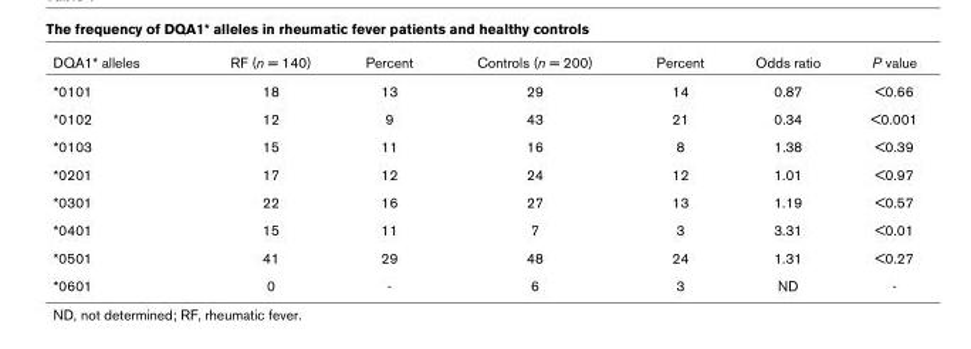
<table><thead><tr><td>DQA1* alleles</td><td>RF (n = 140)</td><td>Percent</td><td>Controls (n = 200)</td><td>Percent</td><td>Odds ratio</td><td>P value</td></tr></thead><tbody><tr><td>*0101</td><td>18</td><td>13</td><td>29</td><td>14</td><td>0.87</td><td>&lt;0.66</td></tr><tr><td>*0102</td><td>12</td><td>9</td><td>43</td><td>21</td><td>0.34</td><td>&lt;0.001</td></tr><tr><td>*0103</td><td>15</td><td>11</td><td>16</td><td>8</td><td>1.38</td><td>&lt;0.39</td></tr><tr><td>*0201</td><td>17</td><td>12</td><td>24</td><td>12</td><td>1.01</td><td>&lt;0.97</td></tr><tr><td>*0301</td><td>22</td><td>16</td><td>27</td><td>13</td><td>1.19</td><td>&lt;0.57</td></tr><tr><td>*0401</td><td>15</td><td>11</td><td>7</td><td>3</td><td>3.31</td><td>&lt;0.01</td></tr><tr><td>*0501</td><td>41</td><td>29</td><td>48</td><td>24</td><td>1.31</td><td>&lt;0.27</td></tr><tr><td>*0601</td><td>0</td><td>-</td><td>6</td><td>3</td><td>ND</td><td>-</td></tr></tbody></table>